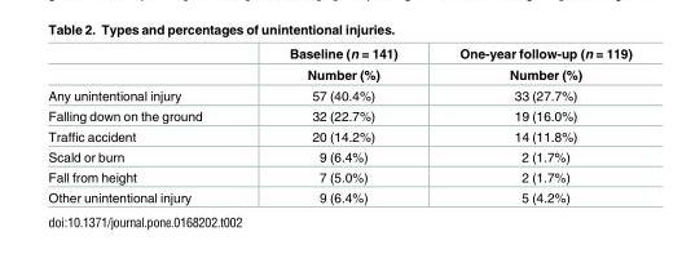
<table><thead><tr><td rowspan="2"></td><td rowspan="2">Baseline (n = 141) Number (%)</td><td rowspan="2">One-year follow-up (n = 119) Number (%)</td></tr><tr></tr></thead><tbody><tr><td>Any unintentional injury</td><td>57 (40.4%)</td><td>33 (27.7%)</td></tr><tr><td>Falling down on the ground</td><td>32 (22.7%)</td><td>19 (16.0%)</td></tr><tr><td>Traffic accident</td><td>20 (14.2%)</td><td>14 (11.8%)</td></tr><tr><td>Scald or burn</td><td>9 (6.4%)</td><td>2 (1.7%)</td></tr><tr><td>Fall from height</td><td>7 (5.0%)</td><td>2 (1.7%)</td></tr><tr><td>Other unintentional injury</td><td>9 (6.4%)</td><td>5 (4.2%)</td></tr></tbody></table>